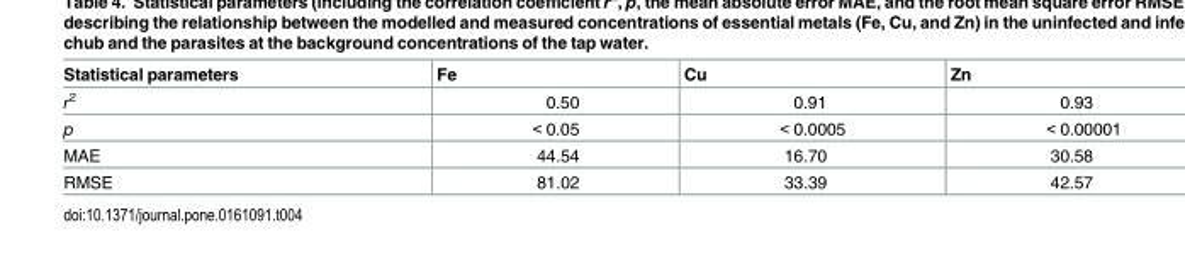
<table><thead><tr><td>Statistical parameters</td><td>Fe</td><td>Cu</td><td>Zn</td></tr></thead><tbody><tr><td>r<sup>2</sup></td><td>0.50</td><td>0.91</td><td>0.93</td></tr><tr><td>p</td><td>&lt; 0.05</td><td>&lt; 0.0005</td><td>&lt; 0.00001</td></tr><tr><td>MAE</td><td>44.54</td><td>16.70</td><td>30.58</td></tr><tr><td>RMSE</td><td>81.02</td><td>33.39</td><td>42.57</td></tr></tbody></table>